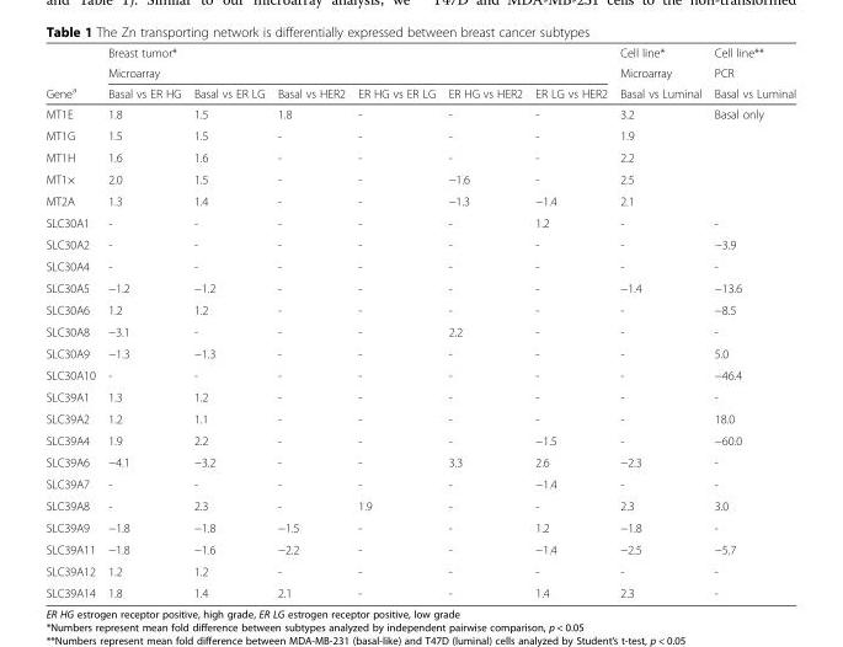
<table><thead><tr><td rowspan="3">Gene<sup>a</sup></td><td>Breast tumor*</td><td></td><td></td><td></td><td></td><td></td><td rowspan="3">Cell line* Microarray Basal vs Luminal</td><td rowspan="3">Cell line** PCR Basal vs Luminal</td></tr><tr><td colspan="6">Microarray</td></tr><tr><td>Basal vs ER HG</td><td>Basal vs ER LG</td><td>Basal vs HER2</td><td>ER HG vs ER LG</td><td>ER HG vs HER2</td><td>ER LG vs HER2</td></tr></thead><tbody><tr><td>MT1E</td><td>1.8</td><td>1.5</td><td>1.8</td><td>-</td><td>-</td><td>-</td><td>3.2</td><td>Basal only</td></tr><tr><td>MT1G</td><td>1.5</td><td>1.5</td><td>-</td><td>-</td><td>-</td><td>-</td><td>1.9</td><td></td></tr><tr><td>MT1H</td><td>1.6</td><td>1.6</td><td>-</td><td>-</td><td>-</td><td>-</td><td>2.2</td><td></td></tr><tr><td>MT1×</td><td>2.0</td><td>1.5</td><td>-</td><td>-</td><td>−1.6</td><td>-</td><td>2.5</td><td></td></tr><tr><td>MT2A</td><td>1.3</td><td>1.4</td><td>-</td><td>-</td><td>−1.3</td><td>−1.4</td><td>2.1</td><td></td></tr><tr><td>SLC30A1</td><td>-</td><td>-</td><td>-</td><td>-</td><td>-</td><td>1.2</td><td>-</td><td>-</td></tr><tr><td>SLC30A2</td><td>-</td><td>-</td><td>-</td><td>-</td><td>-</td><td>-</td><td>-</td><td>−3.9</td></tr><tr><td>SLC30A4</td><td>-</td><td>-</td><td>-</td><td>-</td><td>-</td><td>-</td><td>-</td><td>-</td></tr><tr><td>SLC30A5</td><td>−1.2</td><td>−1.2</td><td>-</td><td>-</td><td>-</td><td>-</td><td>−1.4</td><td>−13.6</td></tr><tr><td>SLC30A6</td><td>1.2</td><td>1.2</td><td>-</td><td>-</td><td>-</td><td>-</td><td>-</td><td>−8.5</td></tr><tr><td>SLC30A8</td><td>−3.1</td><td>-</td><td>-</td><td>-</td><td>2.2</td><td>-</td><td>-</td><td>-</td></tr><tr><td>SLC30A9</td><td>−1.3</td><td>−1.3</td><td>-</td><td>-</td><td>-</td><td>-</td><td>-</td><td>5.0</td></tr><tr><td>SLC30A10</td><td>-</td><td>-</td><td>-</td><td>-</td><td>-</td><td>-</td><td>-</td><td>−46.4</td></tr><tr><td>SLC39A1</td><td>1.3</td><td>1.2</td><td>-</td><td>-</td><td>-</td><td>-</td><td>-</td><td>-</td></tr><tr><td>SLC39A2</td><td>1.2</td><td>1.1</td><td>-</td><td>-</td><td>-</td><td>-</td><td>-</td><td>18.0</td></tr><tr><td>SLC39A4</td><td>1.9</td><td>2.2</td><td>-</td><td>-</td><td>-</td><td>−1.5</td><td>-</td><td>−60.0</td></tr><tr><td>SLC39A6</td><td>−4.1</td><td>−3.2</td><td>-</td><td>-</td><td>3.3</td><td>2.6</td><td>−2.3</td><td>-</td></tr><tr><td>SLC39A7</td><td>-</td><td>-</td><td>-</td><td>-</td><td>-</td><td>−1.4</td><td>-</td><td>-</td></tr><tr><td>SLC39A8</td><td>-</td><td>2.3</td><td>-</td><td>1.9</td><td>-</td><td>-</td><td>2.3</td><td>3.0</td></tr><tr><td>SLC39A9</td><td>−1.8</td><td>−1.8</td><td>−1.5</td><td>-</td><td>-</td><td>1.2</td><td>−1.8</td><td>-</td></tr><tr><td>SLC39A11</td><td>−1.8</td><td>−1.6</td><td>−2.2</td><td>-</td><td>-</td><td>−1.4</td><td>−2.5</td><td>−5.7</td></tr><tr><td>SLC39A12</td><td>1.2</td><td>1.2</td><td>-</td><td>-</td><td>-</td><td>-</td><td>-</td><td>-</td></tr><tr><td>SLC39A14</td><td>1.8</td><td>1.4</td><td>2.1</td><td>-</td><td>-</td><td>1.4</td><td>2.3</td><td>-</td></tr></tbody></table>